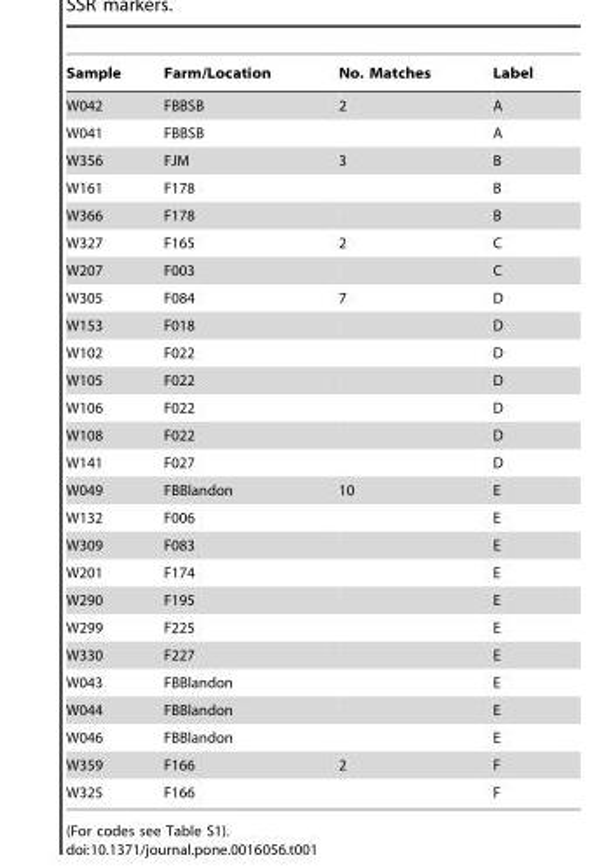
<table><thead><tr><td>Sample</td><td>Farm/Location</td><td>No. Matches</td><td>Label</td></tr></thead><tbody><tr><td>W042</td><td>FBBSB</td><td>2</td><td>A</td></tr><tr><td>W041</td><td>FBBSB</td><td></td><td>A</td></tr><tr><td>W356</td><td>FJM</td><td>3</td><td>B</td></tr><tr><td>W161</td><td>F178</td><td></td><td>B</td></tr><tr><td>W366</td><td>F178</td><td></td><td>B</td></tr><tr><td>W327</td><td>F165</td><td>2</td><td>C</td></tr><tr><td>W207</td><td>F003</td><td></td><td>C</td></tr><tr><td>W305</td><td>F084</td><td>7</td><td>D</td></tr><tr><td>W153</td><td>F018</td><td></td><td>D</td></tr><tr><td>W102</td><td>F022</td><td></td><td>D</td></tr><tr><td>W105</td><td>F022</td><td></td><td>D</td></tr><tr><td>W106</td><td>F022</td><td></td><td>D</td></tr><tr><td>W108</td><td>F022</td><td></td><td>D</td></tr><tr><td>W141</td><td>F027</td><td></td><td>D</td></tr><tr><td>W049</td><td>FBBlandon</td><td>10</td><td>E</td></tr><tr><td>W132</td><td>F006</td><td></td><td>E</td></tr><tr><td>W309</td><td>F083</td><td></td><td>E</td></tr><tr><td>W201</td><td>F174</td><td></td><td>E</td></tr><tr><td>W290</td><td>F195</td><td></td><td>E</td></tr><tr><td>W299</td><td>F225</td><td></td><td>E</td></tr><tr><td>W330</td><td>F227</td><td></td><td>E</td></tr><tr><td>W043</td><td>FBBlandon</td><td></td><td>E</td></tr><tr><td>W044</td><td>FBBlandon</td><td></td><td>E</td></tr><tr><td>W046</td><td>FBBlandon</td><td></td><td>E</td></tr><tr><td>W359</td><td>F166</td><td>2</td><td>F</td></tr><tr><td>W325</td><td>F166</td><td></td><td>F</td></tr></tbody></table>